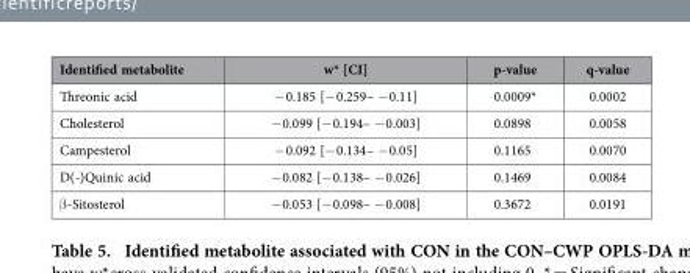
<table><thead><tr><td>Identified metabolite</td><td>w* [CI]</td><td>p-value</td><td>q-value</td></tr></thead><tbody><tr><td>Threonic acid</td><td>− 0.185 [− 0.259– − 0.11]</td><td>0.0009*</td><td>0.0002</td></tr><tr><td>Cholesterol</td><td>− 0.099 [− 0.194– − 0.003]</td><td>0.0898</td><td>0.0058</td></tr><tr><td>Campesterol</td><td>− 0.092 [− 0.134– − 0.05]</td><td>0.1165</td><td>0.0070</td></tr><tr><td>D(-)Quinic acid</td><td>− 0.082 [− 0.138– − 0.026]</td><td>0.1469</td><td>0.0084</td></tr><tr><td>β -Sitosterol</td><td>− 0.053 [− 0.098– − 0.008]</td><td>0.3672</td><td>0.0191</td></tr></tbody></table>